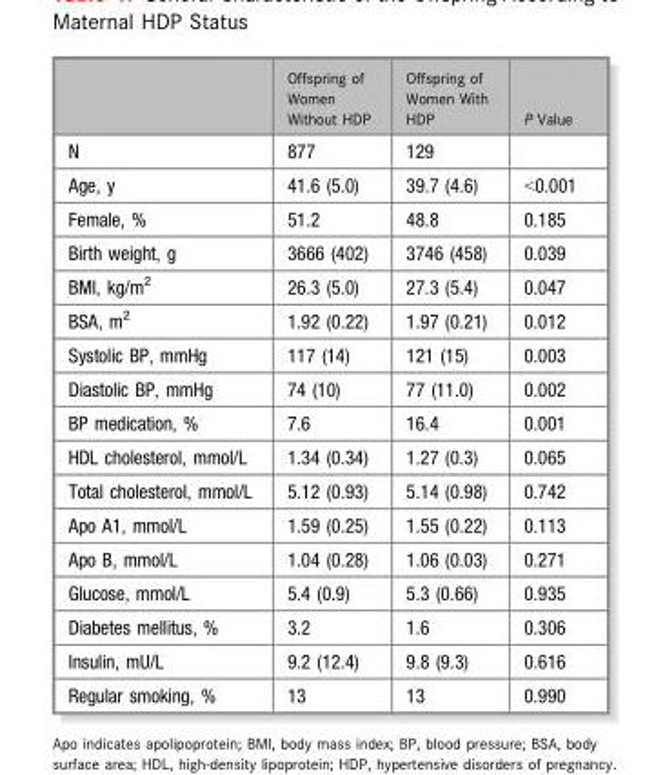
<table><thead><tr><td></td><td>Offspring of Women Without HDP</td><td>Offspring of Women With HDP</td><td>P Value</td></tr></thead><tbody><tr><td>N</td><td>877</td><td>129</td><td></td></tr><tr><td>Age, y</td><td>41.6 (5.0)</td><td>39.7 (4.6)</td><td>&lt;0.001</td></tr><tr><td>Female, %</td><td>51.2</td><td>48.8</td><td>0.185</td></tr><tr><td>Birth weight, g</td><td>3666 (402)</td><td>3746 (458)</td><td>0.039</td></tr><tr><td>BMI, kg/m<sup>2</sup></td><td>26.3 (5.0)</td><td>27.3 (5.4)</td><td>0.047</td></tr><tr><td>BSA, m<sup>2</sup></td><td>1.92 (0.22)</td><td>1.97 (0.21)</td><td>0.012</td></tr><tr><td>Systolic BP, mmHg</td><td>117 (14)</td><td>121 (15)</td><td>0.003</td></tr><tr><td>Diastolic BP, mmHg</td><td>74 (10)</td><td>77 (11.0)</td><td>0.002</td></tr><tr><td>BP medication, %</td><td>7.6</td><td>16.4</td><td>0.001</td></tr><tr><td>HDL cholesterol, mmol/L</td><td>1.34 (0.34)</td><td>1.27 (0.3)</td><td>0.065</td></tr><tr><td>Total cholesterol, mmol/L</td><td>5.12 (0.93)</td><td>5.14 (0.98)</td><td>0.742</td></tr><tr><td>Apo A1, mmol/L</td><td>1.59 (0.25)</td><td>1.55 (0.22)</td><td>0.113</td></tr><tr><td>Apo B, mmol/L</td><td>1.04 (0.28)</td><td>1.06 (0.03)</td><td>0.271</td></tr><tr><td>Glucose, mmol/L</td><td>5.4 (0.9)</td><td>5.3 (0.66)</td><td>0.935</td></tr><tr><td>Diabetes mellitus, %</td><td>3.2</td><td>1.6</td><td>0.306</td></tr><tr><td>Insulin, mU/L</td><td>9.2 (12.4)</td><td>9.8 (9.3)</td><td>0.616</td></tr><tr><td>Regular smoking, %</td><td>13</td><td>13</td><td>0.990</td></tr></tbody></table>